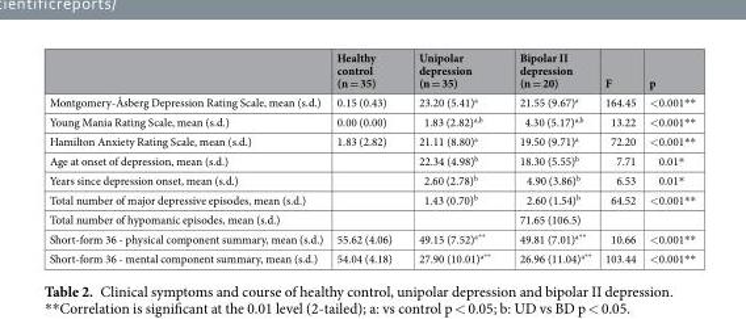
<table><thead><tr><td></td><td>Healthy control (n = 35)</td><td>Unipolar depression (n = 35)</td><td>Bipolar II depression (n = 20)</td><td>F</td><td>p</td></tr></thead><tbody><tr><td>Montgomery-Åsberg Depression Rating Scale, mean (s.d.)</td><td>0.15 (0.43)</td><td>23.20 (5.41)<sup>a</sup></td><td>21.55 (9.67)<sup>a</sup></td><td>164.45</td><td>&lt;0.001**</td></tr><tr><td>Young Mania Rating Scale, mean (s.d.)</td><td>0.00 (0.00)</td><td>1.83 (2.82)<sup>a,b</sup></td><td>4.30 (5.17)<sup>a,b</sup></td><td>13.22</td><td>&lt;0.001**</td></tr><tr><td>Hamilton Anxiety Rating Scale, mean (s.d.)</td><td>1.83 (2.82)</td><td>21.11 (8.80)<sup>a</sup></td><td>19.50 (9.71)<sup>a</sup></td><td>72.20</td><td>&lt;0.001**</td></tr><tr><td>Age at onset of depression, mean (s.d.)</td><td></td><td>22.34 (4.98)<sup>b</sup></td><td>18.30 (5.55)<sup>b</sup></td><td>7.71</td><td>0.01*</td></tr><tr><td>Years since depression onset, mean (s.d.)</td><td></td><td>2.60 (2.78)<sup>b</sup></td><td>4.90 (3.86)<sup>b</sup></td><td>6.53</td><td>0.01*</td></tr><tr><td>Total number of major depressive episodes, mean (s.d.)</td><td></td><td>1.43 (0.70)<sup>b</sup></td><td>2.60 (1.54)<sup>b</sup></td><td>64.52</td><td>&lt;0.001**</td></tr><tr><td>Total number of hypomanic episodes, mean (s.d.)</td><td></td><td></td><td>71.65 (106.5)</td><td></td><td></td></tr><tr><td>Short-form 36 - physical component summary, mean (s.d.)</td><td>55.62 (4.06)</td><td>49.15 (7.52)<sup>a**</sup></td><td>49.81 (7.01)<sup>a**</sup></td><td>10.66</td><td>&lt;0.001**</td></tr><tr><td>Short-form 36 - mental component summary, mean (s.d.)</td><td>54.04 (4.18)</td><td>27.90 (10.01)<sup>a**</sup></td><td>26.96 (11.04)<sup>a**</sup></td><td>103.44</td><td>&lt;0.001**</td></tr></tbody></table>